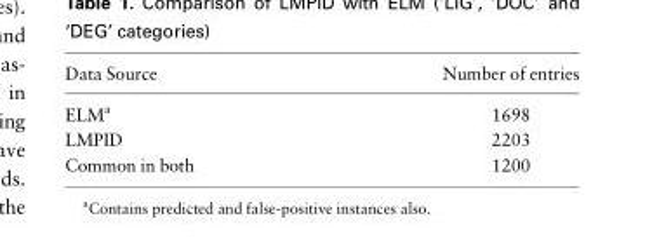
<table><thead><tr><td>Data Source</td><td>Number of entries</td></tr></thead><tbody><tr><td>ELM<sup>a</sup></td><td>1698</td></tr><tr><td>LMPID</td><td>2203</td></tr><tr><td>Common in both</td><td>1200</td></tr></tbody></table>